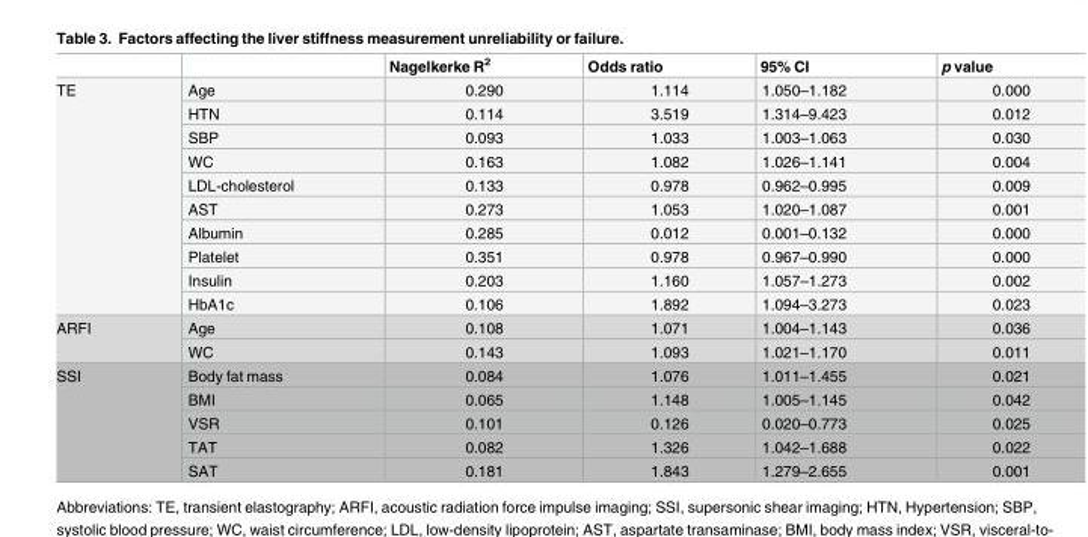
<table><thead><tr><td></td><td></td><td>Nagelkerke R<sup>2</sup></td><td>Odds ratio</td><td>95% CI</td><td>p value</td></tr></thead><tbody><tr><td rowspan="10">TE</td><td>Age</td><td>0.290</td><td>1.114</td><td>1.050–1.182</td><td>0.000</td></tr><tr><td>HTN</td><td>0.114</td><td>3.519</td><td>1.314–9.423</td><td>0.012</td></tr><tr><td>SBP</td><td>0.093</td><td>1.033</td><td>1.003–1.063</td><td>0.030</td></tr><tr><td>WC</td><td>0.163</td><td>1.082</td><td>1.026–1.141</td><td>0.004</td></tr><tr><td>LDL-cholesterol</td><td>0.133</td><td>0.978</td><td>0.962–0.995</td><td>0.009</td></tr><tr><td>AST</td><td>0.273</td><td>1.053</td><td>1.020–1.087</td><td>0.001</td></tr><tr><td>Albumin</td><td>0.285</td><td>0.012</td><td>0.001–0.132</td><td>0.000</td></tr><tr><td>Platelet</td><td>0.351</td><td>0.978</td><td>0.967–0.990</td><td>0.000</td></tr><tr><td>Insulin</td><td>0.203</td><td>1.160</td><td>1.057–1.273</td><td>0.002</td></tr><tr><td>HbA1c</td><td>0.106</td><td>1.892</td><td>1.094–3.273</td><td>0.023</td></tr><tr><td rowspan="2">ARFI</td><td>Age</td><td>0.108</td><td>1.071</td><td>1.004–1.143</td><td>0.036</td></tr><tr><td>WC</td><td>0.143</td><td>1.093</td><td>1.021–1.170</td><td>0.011</td></tr><tr><td rowspan="5">SSI</td><td>Body fat mass</td><td>0.084</td><td>1.076</td><td>1.011–1.455</td><td>0.021</td></tr><tr><td>BMI</td><td>0.065</td><td>1.148</td><td>1.005–1.145</td><td>0.042</td></tr><tr><td>VSR</td><td>0.101</td><td>0.126</td><td>0.020–0.773</td><td>0.025</td></tr><tr><td>TAT</td><td>0.082</td><td>1.326</td><td>1.042–1.688</td><td>0.022</td></tr><tr><td>SAT</td><td>0.181</td><td>1.843</td><td>1.279–2.655</td><td>0.001</td></tr></tbody></table>